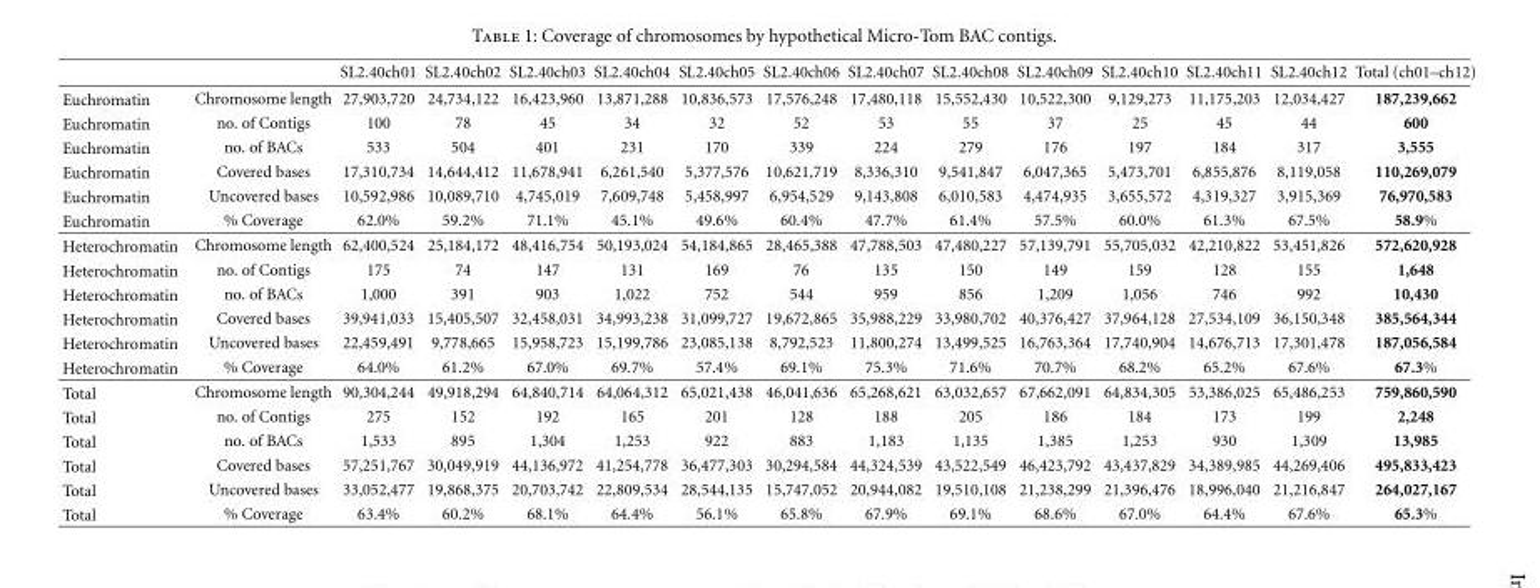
<table><thead><tr><td></td><td></td><td>SL2.40ch01</td><td>SL2.40ch02</td><td>SL2.40ch03</td><td>SL2.40ch04</td><td>SL2.40ch05</td><td>SL2.40ch06</td><td>SL2.40ch07</td><td>SL2.40ch08</td><td>SL2.40ch09</td><td>SL2.40ch10</td><td>SL2.40ch11</td><td>SL2.40ch12</td><td>Total (ch01–ch12)</td></tr></thead><tbody><tr><td>Euchromatin</td><td>Chromosome length</td><td>27,903,720</td><td>24,734,122</td><td>16,423,960</td><td>13,871,288</td><td>10,836,573</td><td>17,576,248</td><td>17,480,118</td><td>15,552,430</td><td>10,522,300</td><td>9,129,273</td><td>11,175,203</td><td>12,034,427</td><td>187,239,662</td></tr><tr><td>Euchromatin</td><td>no. of Contigs</td><td>100</td><td>78</td><td>45</td><td>34</td><td>32</td><td>52</td><td>53</td><td>55</td><td>37</td><td>25</td><td>45</td><td>44</td><td>600</td></tr><tr><td>Euchromatin</td><td>no. of BACs</td><td>533</td><td>504</td><td>401</td><td>231</td><td>170</td><td>339</td><td>224</td><td>279</td><td>176</td><td>197</td><td>184</td><td>317</td><td>3,555</td></tr><tr><td>Euchromatin</td><td>Covered bases</td><td>17,310,734</td><td>14,644,412</td><td>11,678,941</td><td>6,261,540</td><td>5,377,576</td><td>10,621,719</td><td>8,336,310</td><td>9,541,847</td><td>6,047,365</td><td>5,473,701</td><td>6,855,876</td><td>8,119,058</td><td>110,269,079</td></tr><tr><td>Euchromatin</td><td>Uncovered bases</td><td>10,592,986</td><td>10,089,710</td><td>4,745,019</td><td>7,609,748</td><td>5,458,997</td><td>6,954,529</td><td>9,143,808</td><td>6,010,583</td><td>4,474,935</td><td>3,655,572</td><td>4,319,327</td><td>3,915,369</td><td>76,970,583</td></tr><tr><td>Euchromatin</td><td>% Coverage</td><td>62.0%</td><td>59.2%</td><td>71.1%</td><td>45.1%</td><td>49.6%</td><td>60.4%</td><td>47.7%</td><td>61.4%</td><td>57.5%</td><td>60.0%</td><td>61.3%</td><td>67.5%</td><td>58.9%</td></tr><tr><td>Heterochromatin</td><td>Chromosome length</td><td>62,400,524</td><td>25,184,172</td><td>48,416,754</td><td>50,193,024</td><td>54,184,865</td><td>28,465,388</td><td>47,788,503</td><td>47,480,227</td><td>57,139,791</td><td>55,705,032</td><td>42,210,822</td><td>53,451,826</td><td>572,620,928</td></tr><tr><td>Heterochromatin</td><td>no. of Contigs</td><td>175</td><td>74</td><td>147</td><td>131</td><td>169</td><td>76</td><td>135</td><td>150</td><td>149</td><td>159</td><td>128</td><td>155</td><td>1,648</td></tr><tr><td>Heterochromatin</td><td>no. of BACs</td><td>1,000</td><td>391</td><td>903</td><td>1,022</td><td>752</td><td>544</td><td>959</td><td>856</td><td>1,209</td><td>1,056</td><td>746</td><td>992</td><td>10,430</td></tr><tr><td>Heterochromatin</td><td>Covered bases</td><td>39,941,033</td><td>15,405,507</td><td>32,458,031</td><td>34,993,238</td><td>31,099,727</td><td>19,672,865</td><td>35,988,229</td><td>33,980,702</td><td>40,376,427</td><td>37,964,128</td><td>27,534,109</td><td>36,150,348</td><td>385,564,344</td></tr><tr><td>Heterochromatin</td><td>Uncovered bases</td><td>22,459,491</td><td>9,778,665</td><td>15,958,723</td><td>15,199,786</td><td>23,085,138</td><td>8,792,523</td><td>11,800,274</td><td>13,499,525</td><td>16,763,364</td><td>17,740,904</td><td>14,676,713</td><td>17,301,478</td><td>187,056,584</td></tr><tr><td>Heterochromatin</td><td>% Coverage</td><td>64.0%</td><td>61.2%</td><td>67.0%</td><td>69.7%</td><td>57.4%</td><td>69.1%</td><td>75.3%</td><td>71.6%</td><td>70.7%</td><td>68.2%</td><td>65.2%</td><td>67.6%</td><td>67.3%</td></tr><tr><td>Total</td><td>Chromosome length</td><td>90,304,244</td><td>49,918,294</td><td>64,840,714</td><td>64,064,312</td><td>65,021,438</td><td>46,041,636</td><td>65,268,621</td><td>63,032,657</td><td>67,662,091</td><td>64,834,305</td><td>53,386,025</td><td>65,486,253</td><td>759,860,590</td></tr><tr><td>Total</td><td>no. of Contigs</td><td>275</td><td>152</td><td>192</td><td>165</td><td>201</td><td>128</td><td>188</td><td>205</td><td>186</td><td>184</td><td>173</td><td>199</td><td>2,248</td></tr><tr><td>Total</td><td>no. of BACs</td><td>1,533</td><td>895</td><td>1,304</td><td>1,253</td><td>922</td><td>883</td><td>1,183</td><td>1,135</td><td>1,385</td><td>1,253</td><td>930</td><td>1,309</td><td>13,985</td></tr><tr><td>Total</td><td>Covered bases</td><td>57,251,767</td><td>30,049,919</td><td>44,136,972</td><td>41,254,778</td><td>36,477,303</td><td>30,294,584</td><td>44,324,539</td><td>43,522,549</td><td>46,423,792</td><td>43,437,829</td><td>34,389,985</td><td>44,269,406</td><td>495,833,423</td></tr><tr><td>Total</td><td>Uncovered bases</td><td>33,052,477</td><td>19,868,375</td><td>20,703,742</td><td>22,809,534</td><td>28,544,135</td><td>15,747,052</td><td>20,944,082</td><td>19,510,108</td><td>21,238,299</td><td>21,396,476</td><td>18,996,040</td><td>21,216,847</td><td>264,027,167</td></tr><tr><td>Total</td><td>% Coverage</td><td>63.4%</td><td>60.2%</td><td>68.1%</td><td>64.4%</td><td>56.1%</td><td>65.8%</td><td>67.9%</td><td>69.1%</td><td>68.6%</td><td>67.0%</td><td>64.4%</td><td>67.6%</td><td>65.3%</td></tr></tbody></table>